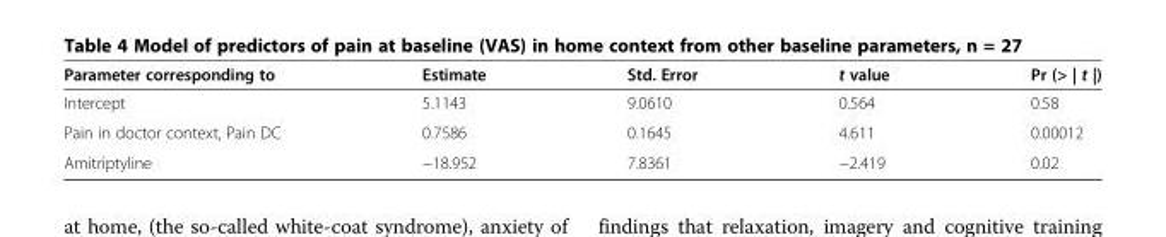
<table><thead><tr><td>Parameter corresponding to</td><td>Estimate</td><td>Std. Error</td><td>t value</td><td>Pr (&gt; | t |)</td></tr></thead><tbody><tr><td>Intercept</td><td>5.1143</td><td>9.0610</td><td>0.564</td><td>0.58</td></tr><tr><td>Pain in doctor context, Pain DC</td><td>0.7586</td><td>0.1645</td><td>4.611</td><td>0.00012</td></tr><tr><td>Amitriptyline</td><td>−18.952</td><td>7.8361</td><td>−2.419</td><td>0.02</td></tr></tbody></table>